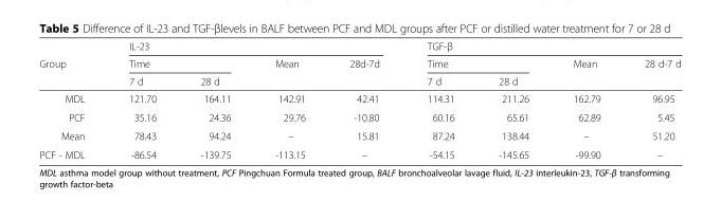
<table><thead><tr><td rowspan="3">Group</td><td colspan="4">IL-23</td><td colspan="4">TGF-β</td></tr><tr><td colspan="2">Time</td><td rowspan="2">Mean</td><td rowspan="2">28d-7d</td><td colspan="2">Time</td><td rowspan="2">Mean</td><td rowspan="2">28 d-7 d</td></tr><tr><td>7 d</td><td>28 d</td><td>7 d</td><td>28 d</td></tr></thead><tbody><tr><td>MDL</td><td>121.70</td><td>164.11</td><td>142.91</td><td>42.41</td><td>114.31</td><td>211.26</td><td>162.79</td><td>96.95</td></tr><tr><td>PCF</td><td>35.16</td><td>24.36</td><td>29.76</td><td>-10.80</td><td>60.16</td><td>65.61</td><td>62.89</td><td>5.45</td></tr><tr><td>Mean</td><td>78.43</td><td>94.24</td><td>–</td><td>15.81</td><td>87.24</td><td>138.44</td><td>–</td><td>51.20</td></tr><tr><td>PCF - MDL</td><td>-86.54</td><td>-139.75</td><td>-113.15</td><td>–</td><td>-54.15</td><td>-145.65</td><td>-99.90</td><td>–</td></tr></tbody></table>